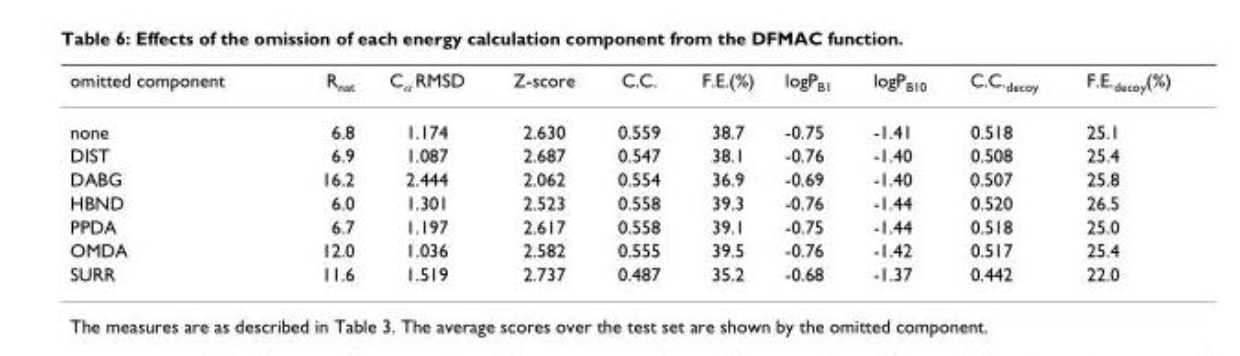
<table><thead><tr><td>omitted component</td><td>R<sub>nat</sub></td><td>C<sub>α</sub> RMSD</td><td>Z-score</td><td>C.C.</td><td>F.E.(%)</td><td>logP<sub>B1</sub></td><td>logP<sub>B10</sub></td><td>C.C.<sub>decoy</sub></td><td>F.E.<sub>decoy</sub>(%)</td></tr></thead><tbody><tr><td>none</td><td>6.8</td><td>1.174</td><td>2.630</td><td>0.559</td><td>38.7</td><td>-0.75</td><td>-1.41</td><td>0.518</td><td>25.1</td></tr><tr><td>DIST</td><td>6.9</td><td>1.087</td><td>2.687</td><td>0.547</td><td>38.1</td><td>-0.76</td><td>-1.40</td><td>0.508</td><td>25.4</td></tr><tr><td>DABG</td><td>16.2</td><td>2.444</td><td>2.062</td><td>0.554</td><td>36.9</td><td>-0.69</td><td>-1.40</td><td>0.507</td><td>25.8</td></tr><tr><td>HBND</td><td>6.0</td><td>1.301</td><td>2.523</td><td>0.558</td><td>39.3</td><td>-0.76</td><td>-1.44</td><td>0.520</td><td>26.5</td></tr><tr><td>PPDA</td><td>6.7</td><td>1.197</td><td>2.617</td><td>0.558</td><td>39.1</td><td>-0.75</td><td>-1.44</td><td>0.518</td><td>25.0</td></tr><tr><td>OMDA</td><td>12.0</td><td>1.036</td><td>2.582</td><td>0.555</td><td>39.5</td><td>-0.76</td><td>-1.42</td><td>0.517</td><td>25.4</td></tr><tr><td>SURR</td><td>11.6</td><td>1.519</td><td>2.737</td><td>0.487</td><td>35.2</td><td>-0.68</td><td>-1.37</td><td>0.442</td><td>22.0</td></tr></tbody></table>